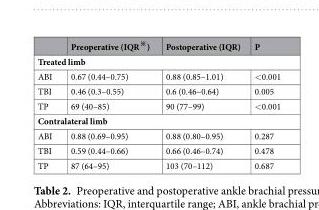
<table><thead><tr><td></td><td>Preoperative (IQR<sup>※</sup>)</td><td>Postoperative (IQR)</td><td>P</td></tr></thead><tbody><tr><td colspan="4">Treated limb</td></tr><tr><td>ABI</td><td>0.67 (0.44–0.75)</td><td>0.88 (0.85–1.01)</td><td>&lt;0.001</td></tr><tr><td>TBI</td><td>0.46 (0.3–0.55)</td><td>0.6 (0.46–0.64)</td><td>0.005</td></tr><tr><td>TP</td><td>69 (40–85)</td><td>90 (77–99)</td><td>&lt;0.001</td></tr><tr><td colspan="4">Contralateral limb</td></tr><tr><td>ABI</td><td>0.88 (0.69–0.95)</td><td>0.88 (0.80–0.95)</td><td>0.287</td></tr><tr><td>TBI</td><td>0.59 (0.44–0.66)</td><td>0.66 (0.46–0.74)</td><td>0.478</td></tr><tr><td>TP</td><td>87 (64–95)</td><td>103 (70–112)</td><td>0.687</td></tr></tbody></table>